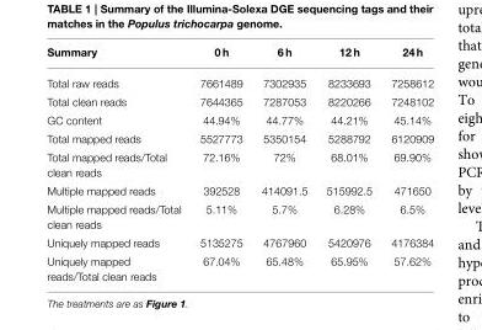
<table><thead><tr><td>Summary</td><td>0 h</td><td>6 h</td><td>12 h</td><td>24 h</td></tr></thead><tbody><tr><td>Total raw reads</td><td>7661489</td><td>7302935</td><td>8233693</td><td>7258612</td></tr><tr><td>Total clean reads</td><td>7644365</td><td>7287053</td><td>8220266</td><td>7248102</td></tr><tr><td>GC content</td><td>44.94%</td><td>44.77%</td><td>44.21%</td><td>45.14%</td></tr><tr><td>Total mapped reads</td><td>5527773</td><td>5350154</td><td>5288792</td><td>6120909</td></tr><tr><td>Total mapped reads/Total clean reads</td><td>72.16%</td><td>72%</td><td>68.01%</td><td>69.90%</td></tr><tr><td>Multiple mapped reads</td><td>392528</td><td>414091.5</td><td>515992.5</td><td>471650</td></tr><tr><td>Multiple mapped reads/Total clean reads</td><td>5.11%</td><td>5.7%</td><td>6.28%</td><td>6.5%</td></tr><tr><td>Uniquely mapped reads</td><td>5135275</td><td>4767960</td><td>5420976</td><td>4176384</td></tr><tr><td>Uniquely mapped reads/Total clean reads</td><td>67.04%</td><td>65.48%</td><td>65.95%</td><td>57.62%</td></tr></tbody></table>